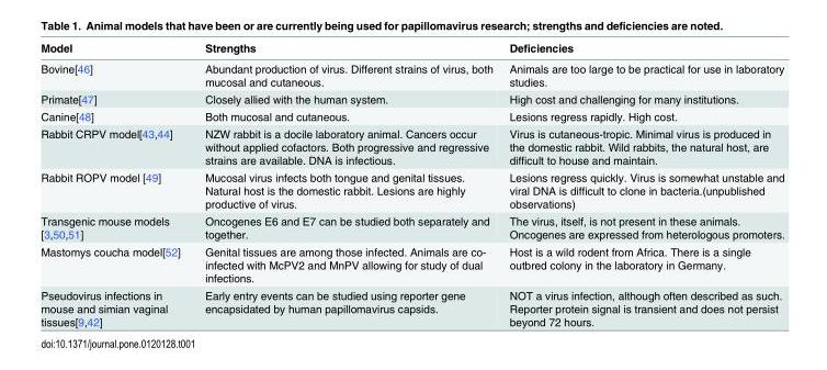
<table><thead><tr><td>Model</td><td>Strengths</td><td>Deficiencies</td></tr></thead><tbody><tr><td>Bovine[46]</td><td>Abundant production of virus. Different strains of virus, both mucosal and cutaneous.</td><td>Animals are too large to be practical for use in laboratory studies.</td></tr><tr><td>Primate[47]</td><td>Closely allied with the human system.</td><td>High cost and challenging for many institutions.</td></tr><tr><td>Canine[48]</td><td>Both mucosal and cutaneous.</td><td>Lesions regress rapidly. High cost.</td></tr><tr><td>Rabbit CRPV model[43,44]</td><td>NZW rabbit is a docile laboratory animal. Cancers occur without applied cofactors. Both progressive and regressive strains are available. DNA is infectious.</td><td>Virus is cutaneous-tropic. Minimal virus is produced in the domestic rabbit. Wild rabbits, the natural host, are difficult to house and maintain.</td></tr><tr><td>Rabbit ROPV model [49]</td><td>Mucosal virus infects both tongue and genital tissues. Natural host is the domestic rabbit. Lesions are highly productive of virus.</td><td>Lesions regress quickly. Virus is somewhat unstable and viral DNA is difficult to clone in bacteria.(unpublished observations)</td></tr><tr><td>Transgenic mouse models [3,50,51]</td><td>Oncogenes E6 and E7 can be studied both separately and together.</td><td>The virus, itself, is not present in these animals. Oncogenes are expressed from heterologous promoters.</td></tr><tr><td>Mastomys coucha model[52]</td><td>Genital tissues are among those infected. Animals are co- infected with McPV2 and MnPV allowing for study of dual infections.</td><td>Host is a wild rodent from Africa. There is a single outbred colony in the laboratory in Germany.</td></tr><tr><td>Pseudovirus infections in mouse and simian vaginal tissues[9,42]</td><td>Early entry events can be studied using reporter gene encapsidated by human papillomavirus capsids.</td><td>NOT a virus infection, although often described as such. Reporter protein signal is transient and does not persist beyond 72 hours.</td></tr></tbody></table>